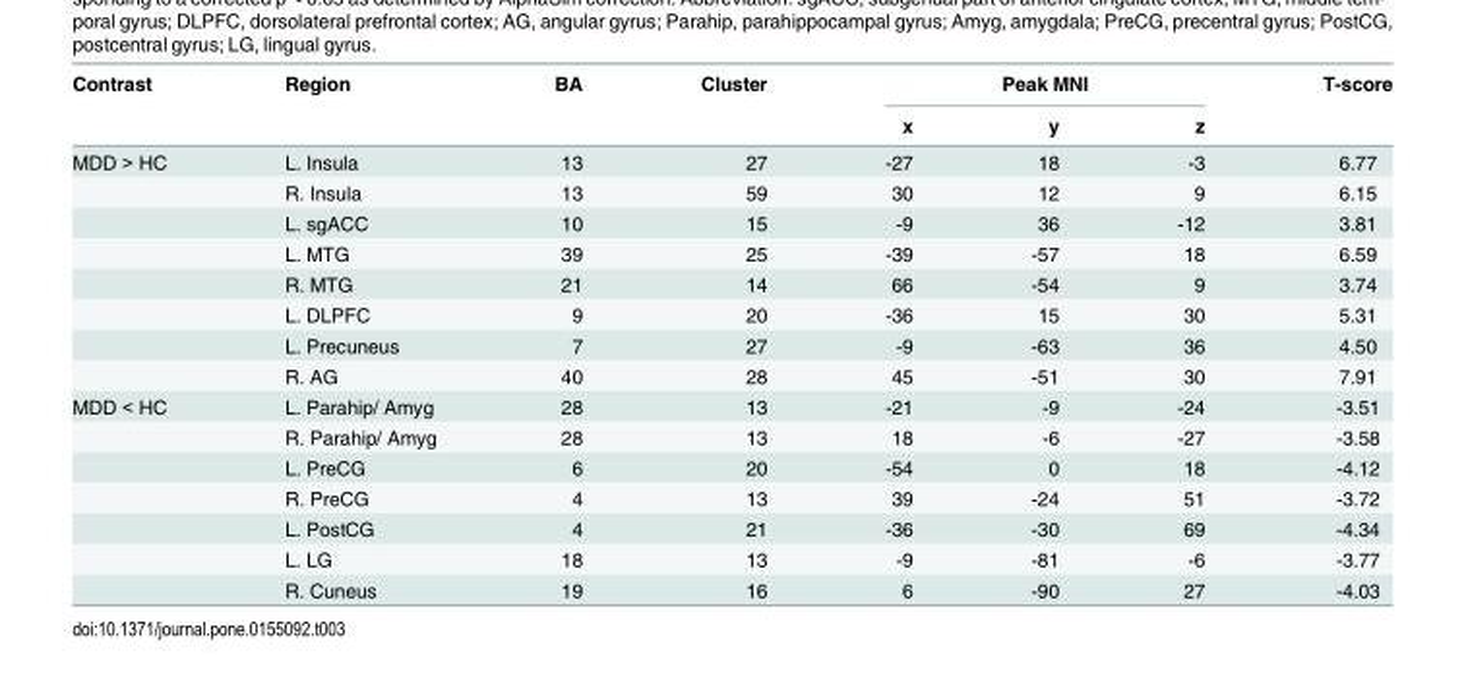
<table><thead><tr><td rowspan="2">Contrast</td><td rowspan="2">Region</td><td rowspan="2">BA</td><td rowspan="2">Cluster</td><td colspan="3">Peak MNI</td><td rowspan="2">T-score</td></tr><tr><td>x</td><td>y</td><td>z</td></tr></thead><tbody><tr><td rowspan="8">MDD &gt; HC</td><td>L. Insula</td><td>13</td><td>27</td><td>-27</td><td>18</td><td>-3</td><td>6.77</td></tr><tr><td>R. Insula</td><td>13</td><td>59</td><td>30</td><td>12</td><td>9</td><td>6.15</td></tr><tr><td>L. sgACC</td><td>10</td><td>15</td><td>-9</td><td>36</td><td>-12</td><td>3.81</td></tr><tr><td>L. MTG</td><td>39</td><td>25</td><td>-39</td><td>-57</td><td>18</td><td>6.59</td></tr><tr><td>R. MTG</td><td>21</td><td>14</td><td>66</td><td>-54</td><td>9</td><td>3.74</td></tr><tr><td>L. DLPFC</td><td>9</td><td>20</td><td>-36</td><td>15</td><td>30</td><td>5.31</td></tr><tr><td>L. Precuneus</td><td>7</td><td>27</td><td>-9</td><td>-63</td><td>36</td><td>4.50</td></tr><tr><td>R. AG</td><td>40</td><td>28</td><td>45</td><td>-51</td><td>30</td><td>7.91</td></tr><tr><td rowspan="7">MDD &lt; HC</td><td>L. Parahip/ Amyg</td><td>28</td><td>13</td><td>-21</td><td>-9</td><td>-24</td><td>-3.51</td></tr><tr><td>R. Parahip/ Amyg</td><td>28</td><td>13</td><td>18</td><td>-6</td><td>-27</td><td>-3.58</td></tr><tr><td>L. PreCG</td><td>6</td><td>20</td><td>-54</td><td>0</td><td>18</td><td>-4.12</td></tr><tr><td>R. PreCG</td><td>4</td><td>13</td><td>39</td><td>-24</td><td>51</td><td>-3.72</td></tr><tr><td>L. PostCG</td><td>4</td><td>21</td><td>-36</td><td>-30</td><td>69</td><td>-4.34</td></tr><tr><td>L. LG</td><td>18</td><td>13</td><td>-9</td><td>-81</td><td>-6</td><td>-3.77</td></tr><tr><td>R. Cuneus</td><td>19</td><td>16</td><td>6</td><td>-90</td><td>27</td><td>-4.03</td></tr></tbody></table>